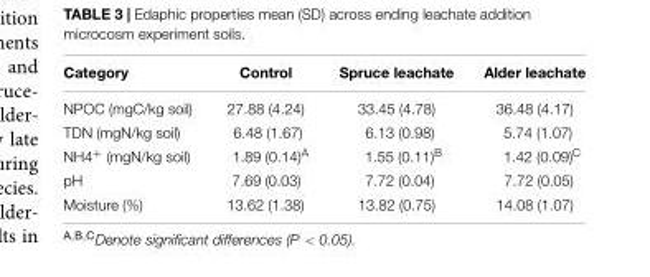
<table><thead><tr><td>Category</td><td>Control</td><td>Spruce leachate</td><td>Alder leachate</td></tr></thead><tbody><tr><td>NPOC (mgC/kg soil)</td><td>27.88 (4.24)</td><td>33.45 (4.78)</td><td>36.48 (4.17)</td></tr><tr><td>TDN (mgN/kg soil)</td><td>6.48 (1.67)</td><td>6.13 (0.98)</td><td>5.74 (1.07)</td></tr><tr><td>NH4<sup>+</sup> (mgN/kg soil)</td><td>1.89 (0.14)<sup>A</sup></td><td>1.55 (0.11)<sup>B</sup></td><td>1.42 (0.09)<sup>C</sup></td></tr><tr><td>pH</td><td>7.69 (0.03)</td><td>7.72 (0.04)</td><td>7.72 (0.05)</td></tr><tr><td>Moisture (%)</td><td>13.62 (1.38)</td><td>13.82 (0.75)</td><td>14.08 (1.07)</td></tr></tbody></table>